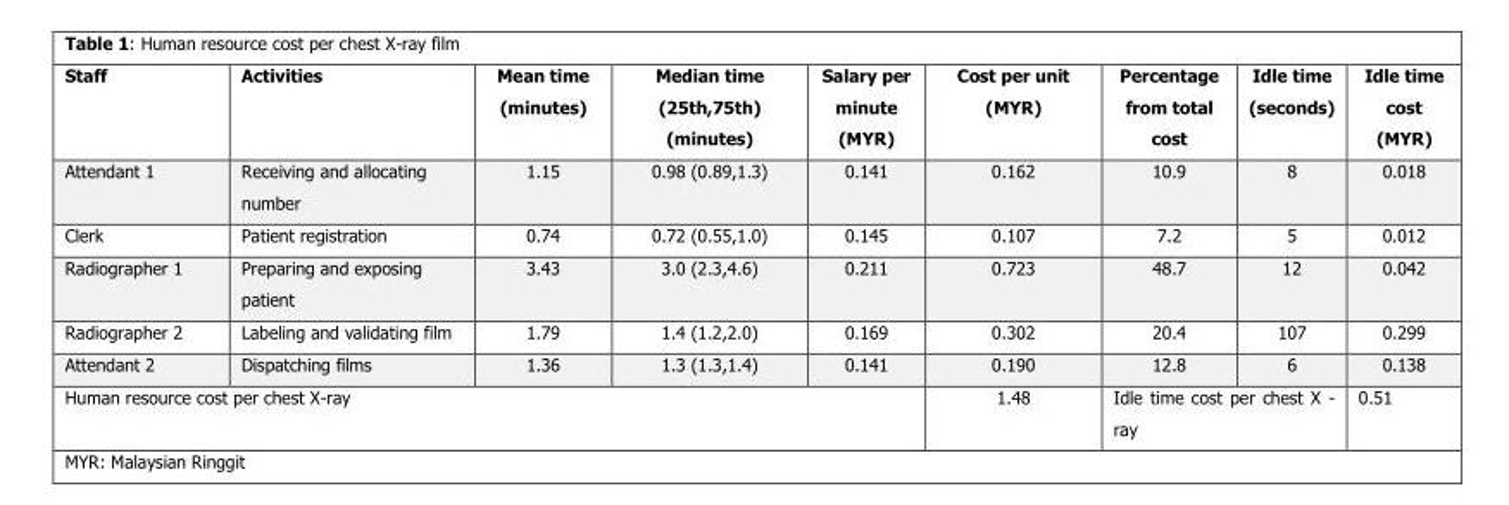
<table><thead><tr><td>Staff</td><td>Activities</td><td>Mean time (minutes)</td><td>Median time (25th,75th) (minutes)</td><td>Salary per minute (MYR)</td><td>Cost per unit (MYR)</td><td>Percentage from total cost</td><td>Idle time (seconds)</td><td>Idle time cost (MYR)</td></tr></thead><tbody><tr><td>Attendant 1</td><td>Receiving and allocating number</td><td>1.15</td><td>0.98 (0.89,1.3)</td><td>0.141</td><td>0.162</td><td>10.9</td><td>8</td><td>0.018</td></tr><tr><td>Clerk</td><td>Patient registration</td><td>0.74</td><td>0.72 (0.55,1.0)</td><td>0.145</td><td>0.107</td><td>7.2</td><td>5</td><td>0.012</td></tr><tr><td>Radiographer 1</td><td>Preparing and exposing patient</td><td>3.43</td><td>3.0 (2.3,4.6)</td><td>0.211</td><td>0.723</td><td>48.7</td><td>12</td><td>0.042</td></tr><tr><td>Radiographer 2</td><td>Labeling and validating film</td><td>1.79</td><td>1.4 (1.2,2.0)</td><td>0.169</td><td>0.302</td><td>20.4</td><td>107</td><td>0.299</td></tr><tr><td>Attendant 2</td><td>Dispatching films</td><td>1.36</td><td>1.3 (1.3,1.4)</td><td>0.141</td><td>0.190</td><td>12.8</td><td>6</td><td>0.138</td></tr><tr><td colspan="5">Human resource cost per chest X-ray</td><td>1.48</td><td colspan="2">Idle time cost per chest X - ray</td><td>0.51</td></tr></tbody></table>